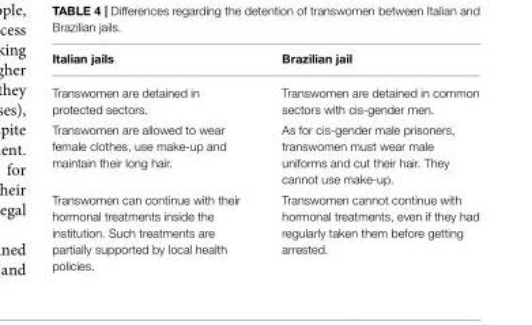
<table><thead><tr><td>Italian jails</td><td>Brazilian jail</td></tr></thead><tbody><tr><td>Transwomen are detained in protected sectors.</td><td>Transwomen are detained in common sectors with cis-gender men.</td></tr><tr><td>Transwomen are allowed to wear female clothes, use make-up and maintain their long hair.</td><td>As for cis-gender male prisoners, transwomen must wear male uniforms and cut their hair. They cannot use make-up.</td></tr><tr><td>Transwomen can continue with their hormonal treatments inside the institution. Such treatments are partially supported by local health policies.</td><td>Transwomen cannot continue with hormonal treatments, even if they had regularly taken them before getting arrested.</td></tr></tbody></table>